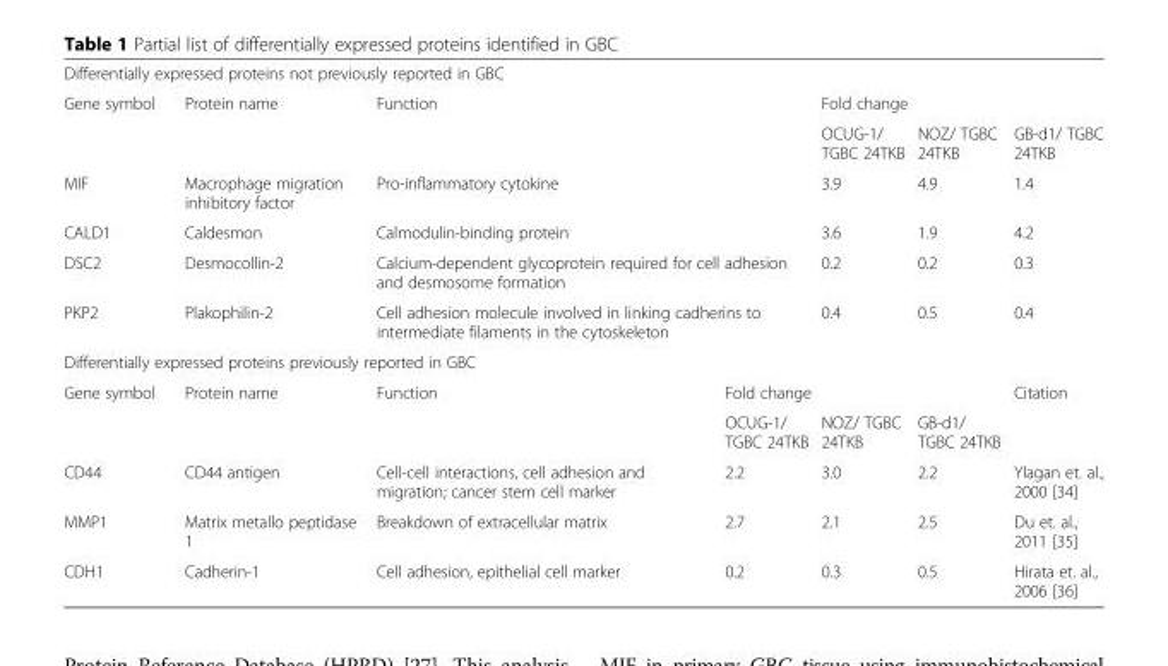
<table><tbody><tr><td colspan="7">Differentially expressed proteins not previously reported in GBC</td></tr><tr><td rowspan="2">Gene symbol</td><td rowspan="2">Protein name</td><td rowspan="2" colspan="2">Function</td><td colspan="3">Fold change</td></tr><tr><td>OCUG-1/ TGBC 24TKB</td><td>NOZ/ TGBC 24TKB</td><td>GB-d1/ TGBC 24TKB</td></tr><tr><td>MIF</td><td>Macrophage migration inhibitory factor</td><td colspan="2">Pro-inflammatory cytokine</td><td>3.9</td><td>4.9</td><td>1.4</td></tr><tr><td>CALD1</td><td>Caldesmon</td><td colspan="2">Calmodulin-binding protein</td><td>3.6</td><td>1.9</td><td>4.2</td></tr><tr><td>DSC2</td><td>Desmocollin-2</td><td colspan="2">Calcium-dependent glycoprotein required for cell adhesion and desmosome formation</td><td>0.2</td><td>0.2</td><td>0.3</td></tr><tr><td>PKP2</td><td>Plakophilin-2</td><td colspan="2">Cell adhesion molecule involved in linking cadherins to intermediate filaments in the cytoskeleton</td><td>0.4</td><td>0.5</td><td>0.4</td></tr><tr><td colspan="7">Differentially expressed proteins previously reported in GBC</td></tr><tr><td rowspan="2">Gene symbol</td><td rowspan="2">Protein name</td><td rowspan="2">Function</td><td colspan="3">Fold change</td><td rowspan="2">Citation</td></tr><tr><td>OCUG-1/ TGBC 24TKB</td><td>NOZ/ TGBC 24TKB</td><td>GB-d1/ TGBC 24TKB</td></tr><tr><td>CD44</td><td>CD44 antigen</td><td>Cell-cell interactions, cell adhesion and migration; cancer stem cell marker</td><td>2.2</td><td>3.0</td><td>2.2</td><td>Ylagan et. al., 2000 [34]</td></tr><tr><td>MMP1</td><td>Matrix metallo peptidase 1</td><td>Breakdown of extracellular matrix</td><td>2.7</td><td>2.1</td><td>2.5</td><td>Du et. al., 2011 [35]</td></tr><tr><td>CDH1</td><td>Cadherin-1</td><td>Cell adhesion, epithelial cell marker</td><td>0.2</td><td>0.3</td><td>0.5</td><td>Hirata et. al., 2006 [36]</td></tr></tbody></table>